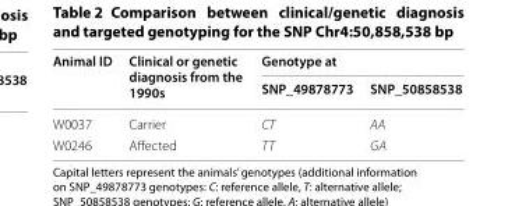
<table><thead><tr><td rowspan="2">Animal ID</td><td rowspan="2">Clinical or genetic diagnosis from the 1990s</td><td colspan="2">Genotype at</td></tr><tr><td>SNP_49878773</td><td>SNP_50858538</td></tr></thead><tbody><tr><td>W0037</td><td>Carrier</td><td>CT</td><td>AA</td></tr><tr><td>W0246</td><td>Affected</td><td>TT</td><td>GA</td></tr></tbody></table>